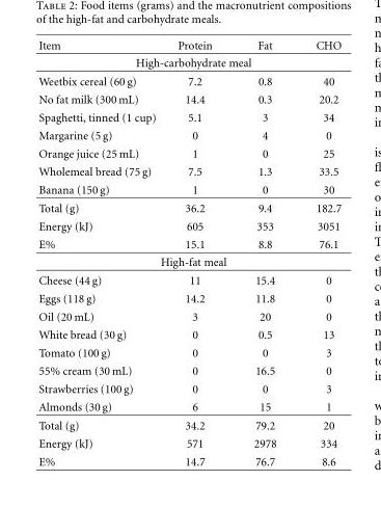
<table><thead><tr><td>Item</td><td>Protein</td><td>Fat</td><td>CHO</td></tr></thead><tbody><tr><td colspan="4">High-carbohydrate meal</td></tr><tr><td>Weetbix cereal (60 g)</td><td>7.2</td><td>0.8</td><td>40</td></tr><tr><td>No fat milk (300 mL)</td><td>14.4</td><td>0.3</td><td>20.2</td></tr><tr><td>Spaghetti, tinned (1 cup)</td><td>5.1</td><td>3</td><td>34</td></tr><tr><td>Margarine (5 g)</td><td>0</td><td>4</td><td>0</td></tr><tr><td>Orange juice (25 mL)</td><td>1</td><td>0</td><td>25</td></tr><tr><td>Wholemeal bread (75 g)</td><td>7.5</td><td>1.3</td><td>33.5</td></tr><tr><td>Banana (150 g)</td><td>1</td><td>0</td><td>30</td></tr><tr><td>Total (g)</td><td>36.2</td><td>9.4</td><td>182.7</td></tr><tr><td>Energy (kJ)</td><td>605</td><td>353</td><td>3051</td></tr><tr><td>E%</td><td>15.1</td><td>8.8</td><td>76.1</td></tr><tr><td colspan="4">High-fat meal</td></tr><tr><td>Cheese (44 g)</td><td>11</td><td>15.4</td><td>0</td></tr><tr><td>Eggs (118 g)</td><td>14.2</td><td>11.8</td><td>0</td></tr><tr><td>Oil (20 mL)</td><td>3</td><td>20</td><td>0</td></tr><tr><td>White bread (30 g)</td><td>0</td><td>0.5</td><td>13</td></tr><tr><td>Tomato (100 g)</td><td>0</td><td>0</td><td>3</td></tr><tr><td>55% cream (30 mL)</td><td>0</td><td>16.5</td><td>0</td></tr><tr><td>Strawberries (100 g)</td><td>0</td><td>0</td><td>3</td></tr><tr><td>Almonds (30 g)</td><td>6</td><td>15</td><td>1</td></tr><tr><td>Total (g)</td><td>34.2</td><td>79.2</td><td>20</td></tr><tr><td>Energy (kJ)</td><td>571</td><td>2978</td><td>334</td></tr><tr><td>E%</td><td>14.7</td><td>76.7</td><td>8.6</td></tr></tbody></table>